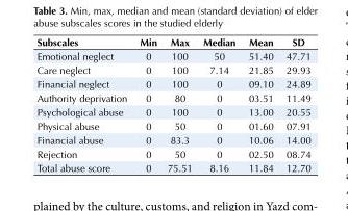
<table><tbody><tr><td>Subscales</td><td>Min</td><td>Max</td><td>Median</td><td>Mean</td><td>SD</td></tr><tr><td>Emotional neglect</td><td>0</td><td>100</td><td>50</td><td>51.40</td><td>47.71</td></tr><tr><td>Care neglect</td><td>0</td><td>100</td><td>7.14</td><td>21.85</td><td>29.93</td></tr><tr><td>Financial neglect</td><td>0</td><td>100</td><td>0</td><td>09.10</td><td>24.89</td></tr><tr><td>Authority deprivation</td><td>0</td><td>80</td><td>0</td><td>03.51</td><td>11.49</td></tr><tr><td>Psychological abuse</td><td>0</td><td>100</td><td>0</td><td>13.00</td><td>20.55</td></tr><tr><td>Physical abuse</td><td>0</td><td>50</td><td>0</td><td>01.60</td><td>07.91</td></tr><tr><td>Financial abuse</td><td>0</td><td>83.3</td><td>0</td><td>10.06</td><td>14.00</td></tr><tr><td>Rejection</td><td>0</td><td>50</td><td>0</td><td>02.50</td><td>08.74</td></tr><tr><td>Total abuse score</td><td>0</td><td>75.51</td><td>8.16</td><td>11.84</td><td>12.70</td></tr></tbody></table>